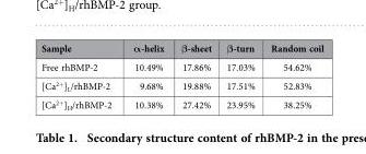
<table><thead><tr><td>Sample</td><td>α-helix</td><td>β-sheet</td><td>β-turn</td><td>Random coil</td></tr></thead><tbody><tr><td>Free rhBMP-2</td><td>10.49%</td><td>17.86%</td><td>17.03%</td><td>54.62%</td></tr><tr><td>[Ca<sup>2+</sup>]<sub>L</sub>/rhBMP-2</td><td>9.68%</td><td>19.88%</td><td>17.51%</td><td>52.83%</td></tr><tr><td>[Ca<sup>2+</sup>]<sub>H</sub>/rhBMP-2</td><td>10.38%</td><td>27.42%</td><td>23.95%</td><td>38.25%</td></tr></tbody></table>